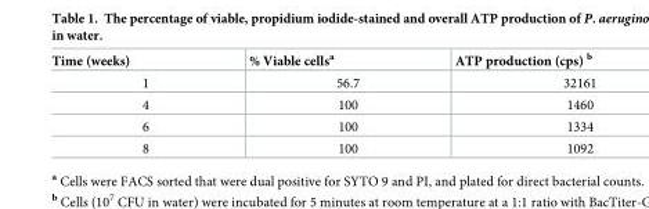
<table><thead><tr><td>Time (weeks)</td><td>% Viable cells<sup>a</sup></td><td>ATP production (cps) <sup>b</sup></td></tr></thead><tbody><tr><td>1</td><td>56.7</td><td>32161</td></tr><tr><td>4</td><td>100</td><td>1460</td></tr><tr><td>6</td><td>100</td><td>1334</td></tr><tr><td>8</td><td>100</td><td>1092</td></tr></tbody></table>